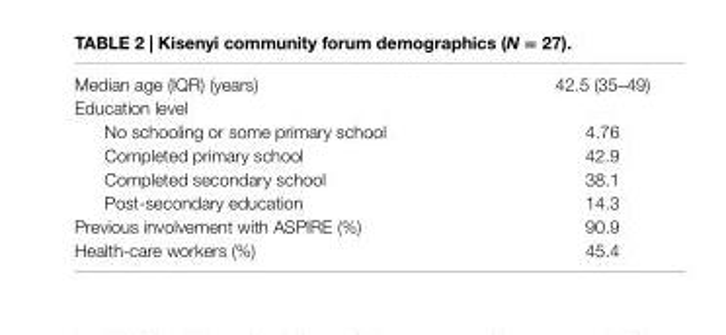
<table><tbody><tr><td>Median age (IQR) (years)</td><td>42.5 (35–49)</td></tr><tr><td colspan="2">Education level</td></tr><tr><td>No schooling or some primary school</td><td>4.76</td></tr><tr><td>Completed primary school</td><td>42.9</td></tr><tr><td>Completed secondary school</td><td>38.1</td></tr><tr><td>Post-secondary education</td><td>14.3</td></tr><tr><td>Previous involvement with ASPIRE (%)</td><td>90.9</td></tr><tr><td>Health-care workers (%)</td><td>45.4</td></tr></tbody></table>